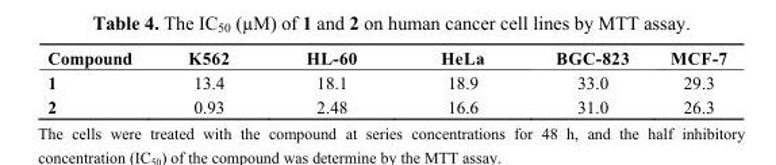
<table><thead><tr><td>Compound</td><td>K562</td><td>HL-60</td><td>HeLa</td><td>BGC-823</td><td>MCF-7</td></tr></thead><tbody><tr><td>1</td><td>13.4</td><td>18.1</td><td>18.9</td><td>33.0</td><td>29.3</td></tr><tr><td>2</td><td>0.93</td><td>2.48</td><td>16.6</td><td>31.0</td><td>26.3</td></tr></tbody></table>